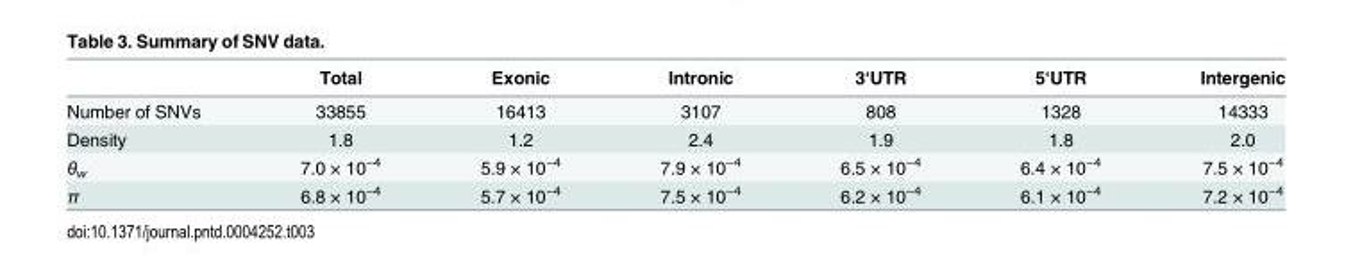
<table><thead><tr><td></td><td>Total</td><td>Exonic</td><td>Intronic</td><td>3‘UTR</td><td>5‘UTR</td><td>Intergenic</td></tr></thead><tbody><tr><td>Number of SNVs</td><td>33855</td><td>16413</td><td>3107</td><td>808</td><td>1328</td><td>14333</td></tr><tr><td>Density</td><td>1.8</td><td>1.2</td><td>2.4</td><td>1.9</td><td>1.8</td><td>2.0</td></tr><tr><td>θ<sub>w</sub></td><td>7.0 × 10<sup>−4</sup></td><td>5.9 × 10<sup>−4</sup></td><td>7.9 × 10<sup>−4</sup></td><td>6.5 × 10<sup>−4</sup></td><td>6.4 × 10<sup>−4</sup></td><td>7.5 × 10<sup>−4</sup></td></tr><tr><td>π</td><td>6.8 × 10<sup>−4</sup></td><td>5.7 × 10<sup>−4</sup></td><td>7.5 × 10<sup>−4</sup></td><td>6.2 × 10<sup>−4</sup></td><td>6.1 × 10<sup>−4</sup></td><td>7.2 × 10<sup>−4</sup></td></tr></tbody></table>